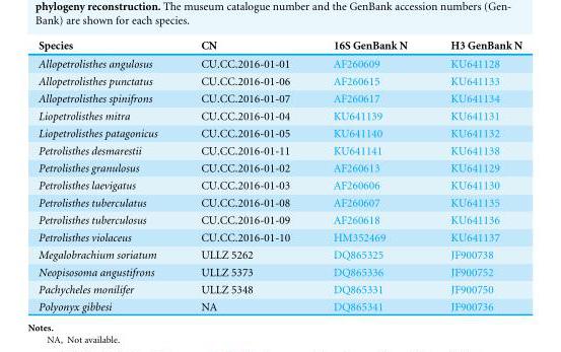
<table><thead><tr><td>Species</td><td>CN</td><td>16S GenBank N</td><td>H3 GenBank N</td></tr></thead><tbody><tr><td>Allopetrolisthes angulosus</td><td>CU.CC.2016-01-01</td><td>AF260609</td><td>KU641128</td></tr><tr><td>Allopetrolisthes punctatus</td><td>CU.CC.2016-01-06</td><td>AF260615</td><td>KU641133</td></tr><tr><td>Allopetrolisthes spinifrons</td><td>CU.CC.2016-01-07</td><td>AF260617</td><td>KU641134</td></tr><tr><td>Liopetrolisthes mitra</td><td>CU.CC.2016-01-04</td><td>KU641139</td><td>KU641131</td></tr><tr><td>Liopetrolisthes patagonicus</td><td>CU.CC.2016-01-05</td><td>KU641140</td><td>KU641132</td></tr><tr><td>Petrolisthes desmarestii</td><td>CU.CC.2016-01-11</td><td>KU641141</td><td>KU641138</td></tr><tr><td>Petrolisthes granulosus</td><td>CU.CC.2016-01-02</td><td>AF260613</td><td>KU641129</td></tr><tr><td>Petrolisthes laevigatus</td><td>CU.CC.2016-01-03</td><td>AF260606</td><td>KU641130</td></tr><tr><td>Petrolisthes tuberculatus</td><td>CU.CC.2016-01-08</td><td>AF260607</td><td>KU641135</td></tr><tr><td>Petrolisthes tuberculosus</td><td>CU.CC.2016-01-09</td><td>AF260618</td><td>KU641136</td></tr><tr><td>Petrolisthes violaceus</td><td>CU.CC.2016-01-10</td><td>HM352469</td><td>KU641137</td></tr><tr><td>Megalobrachium soriatum</td><td>ULLZ 5262</td><td>DQ865325</td><td>JF900738</td></tr><tr><td>Neopisosoma angustifrons</td><td>ULLZ 5373</td><td>DQ865336</td><td>JF900752</td></tr><tr><td>Pachycheles monilifer</td><td>ULLZ 5348</td><td>DQ865331</td><td>JF900750</td></tr><tr><td>Polyonyx gibbesi</td><td>NA</td><td>DQ865341</td><td>JF900736</td></tr></tbody></table>